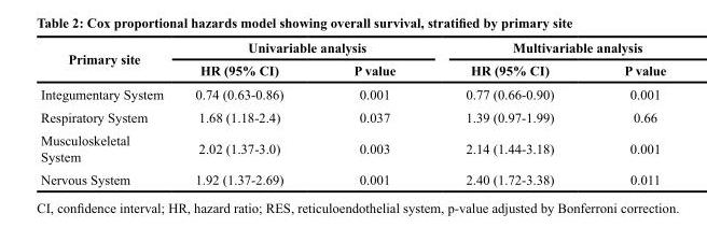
<table><thead><tr><td rowspan="2">Primary site</td><td colspan="2">Univariable analysis</td><td colspan="2">Multivariable analysis</td></tr><tr><td>HR (95% CI)</td><td>P value</td><td>HR (95% CI)</td><td>P value</td></tr></thead><tbody><tr><td>Integumentary System</td><td>0.74 (0.63-0.86)</td><td>0.001</td><td>0.77 (0.66-0.90)</td><td>0.001</td></tr><tr><td>Respiratory System</td><td>1.68 (1.18-2.4)</td><td>0.037</td><td>1.39 (0.97-1.99)</td><td>0.66</td></tr><tr><td>Musculoskeletal System</td><td>2.02 (1.37-3.0)</td><td>0.003</td><td>2.14 (1.44-3.18)</td><td>0.001</td></tr><tr><td>Nervous System</td><td>1.92 (1.37-2.69)</td><td>0.001</td><td>2.40 (1.72-3.38)</td><td>0.011</td></tr></tbody></table>